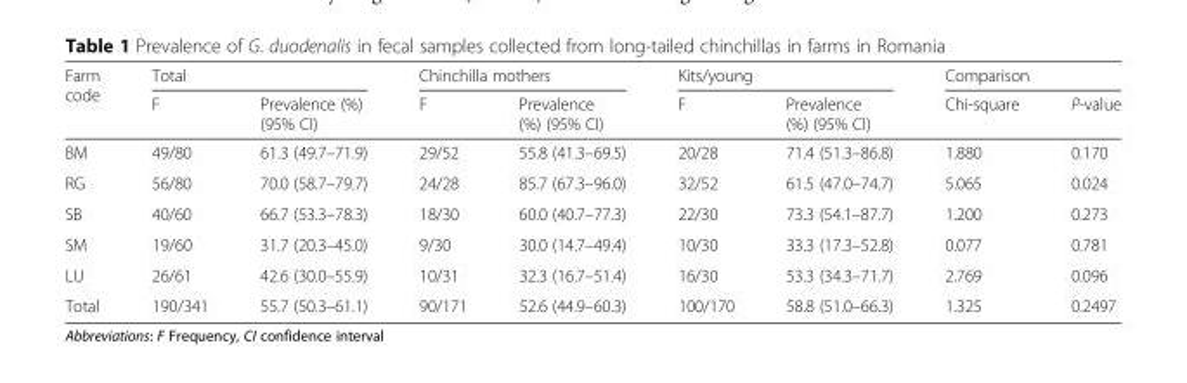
<table><thead><tr><td rowspan="2">Farm code</td><td colspan="2">Total</td><td colspan="2">Chinchilla mothers</td><td colspan="2">Kits/young</td><td colspan="2">Comparison</td></tr><tr><td>F</td><td>Prevalence (%) (95% CI)</td><td>F</td><td>Prevalence (%) (95% CI)</td><td>F</td><td>Prevalence (%) (95% CI)</td><td>Chi-square</td><td>P-value</td></tr></thead><tbody><tr><td>BM</td><td>49/80</td><td>61.3 (49.7–71.9)</td><td>29/52</td><td>55.8 (41.3–69.5)</td><td>20/28</td><td>71.4 (51.3–86.8)</td><td>1.880</td><td>0.170</td></tr><tr><td>RG</td><td>56/80</td><td>70.0 (58.7–79.7)</td><td>24/28</td><td>85.7 (67.3–96.0)</td><td>32/52</td><td>61.5 (47.0–74.7)</td><td>5.065</td><td>0.024</td></tr><tr><td>SB</td><td>40/60</td><td>66.7 (53.3–78.3)</td><td>18/30</td><td>60.0 (40.7–77.3)</td><td>22/30</td><td>73.3 (54.1–87.7)</td><td>1.200</td><td>0.273</td></tr><tr><td>SM</td><td>19/60</td><td>31.7 (20.3–45.0)</td><td>9/30</td><td>30.0 (14.7–49.4)</td><td>10/30</td><td>33.3 (17.3–52.8)</td><td>0.077</td><td>0.781</td></tr><tr><td>LU</td><td>26/61</td><td>42.6 (30.0–55.9)</td><td>10/31</td><td>32.3 (16.7–51.4)</td><td>16/30</td><td>53.3 (34.3–71.7)</td><td>2.769</td><td>0.096</td></tr><tr><td>Total</td><td>190/341</td><td>55.7 (50.3–61.1)</td><td>90/171</td><td>52.6 (44.9–60.3)</td><td>100/170</td><td>58.8 (51.0–66.3)</td><td>1.325</td><td>0.2497</td></tr></tbody></table>